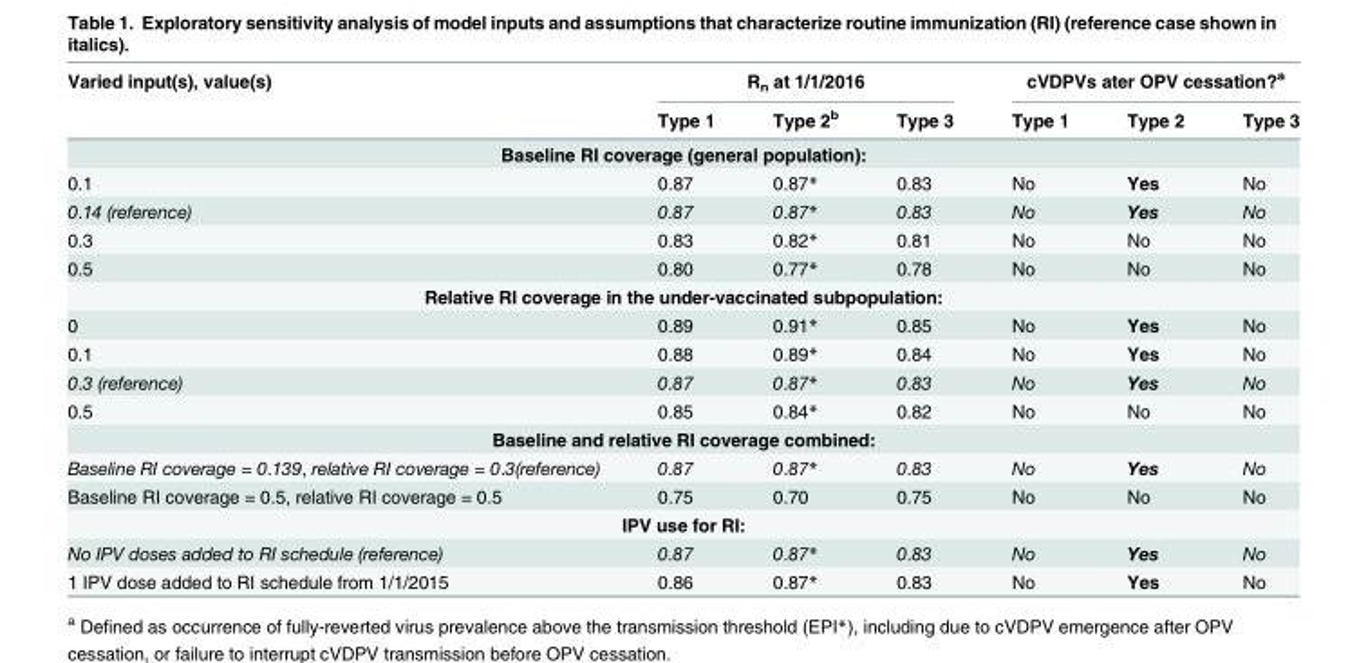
<table><thead><tr><td rowspan="2">Varied input(s), value(s)</td><td colspan="3">R<sub>n</sub> at 1/1/2016</td><td colspan="3">cVDPVs ater OPV cessation?<sup>a</sup></td></tr><tr><td>Type 1</td><td>Type 2<sup>b</sup></td><td>Type 3</td><td>Type 1</td><td>Type 2</td><td>Type 3</td></tr></thead><tbody><tr><td colspan="7">Baseline RI coverage (general population):</td></tr><tr><td>0.1</td><td>0.87</td><td>0.87*</td><td>0.83</td><td>No</td><td>Yes</td><td>No</td></tr><tr><td>0.14 (reference)</td><td>0.87</td><td>0.87*</td><td>0.83</td><td>No</td><td>Yes</td><td>No</td></tr><tr><td>0.3</td><td>0.83</td><td>0.82*</td><td>0.81</td><td>No</td><td>No</td><td>No</td></tr><tr><td>0.5</td><td>0.80</td><td>0.77*</td><td>0.78</td><td>No</td><td>No</td><td>No</td></tr><tr><td colspan="7">Relative RI coverage in the under-vaccinated subpopulation:</td></tr><tr><td>0</td><td>0.89</td><td>0.91*</td><td>0.85</td><td>No</td><td>Yes</td><td>No</td></tr><tr><td>0.1</td><td>0.88</td><td>0.89*</td><td>0.84</td><td>No</td><td>Yes</td><td>No</td></tr><tr><td>0.3 (reference)</td><td>0.87</td><td>0.87*</td><td>0.83</td><td>No</td><td>Yes</td><td>No</td></tr><tr><td>0.5</td><td>0.85</td><td>0.84*</td><td>0.82</td><td>No</td><td>No</td><td>No</td></tr><tr><td colspan="7">Baseline and relative RI coverage combined:</td></tr><tr><td>Baseline RI coverage = 0.139, relative RI coverage = 0.3(reference)</td><td>0.87</td><td>0.87*</td><td>0.83</td><td>No</td><td>Yes</td><td>No</td></tr><tr><td>Baseline RI coverage = 0.5, relative RI coverage = 0.5</td><td>0.75</td><td>0.70</td><td>0.75</td><td>No</td><td>No</td><td>No</td></tr><tr><td colspan="7">IPV use for RI:</td></tr><tr><td>No IPV doses added to RI schedule (reference)</td><td>0.87</td><td>0.87*</td><td>0.83</td><td>No</td><td>Yes</td><td>No</td></tr><tr><td>1 IPV dose added to RI schedule from 1/1/2015</td><td>0.86</td><td>0.87*</td><td>0.83</td><td>No</td><td>Yes</td><td>No</td></tr></tbody></table>